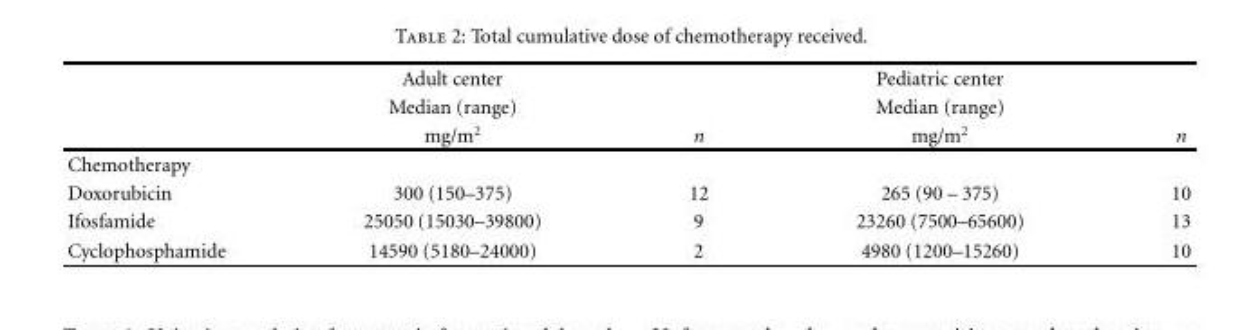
<table><thead><tr><td rowspan="3"></td><td rowspan="3">Adult center Median (range) mg/m<sup>2</sup></td><td colspan="3">Pediatric center</td></tr><tr><td rowspan="2">n</td><td rowspan="2">Median (range) mg/m<sup>2</sup></td><td rowspan="2">n</td></tr><tr></tr></thead><tbody><tr><td colspan="5">Chemotherapy</td></tr><tr><td>Doxorubicin</td><td>300 (150–375)</td><td>12</td><td>265 (90 – 375)</td><td>10</td></tr><tr><td>Ifosfamide</td><td>25050 (15030–39800)</td><td>9</td><td>23260 (7500–65600)</td><td>13</td></tr><tr><td>Cyclophosphamide</td><td>14590 (5180–24000)</td><td>2</td><td>4980 (1200–15260)</td><td>10</td></tr></tbody></table>